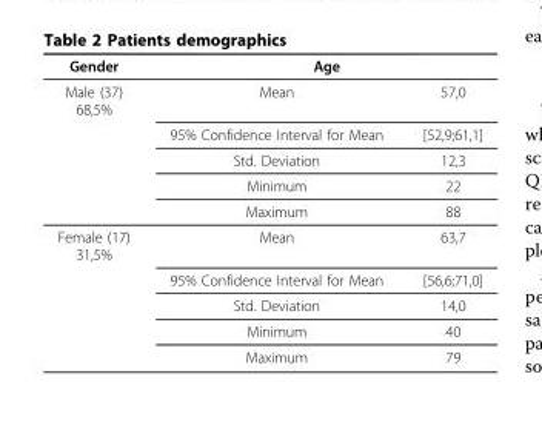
<table><thead><tr><td rowspan="2">Gender Male (37) 68,5%</td><td colspan="2">Age</td></tr><tr><td>Mean</td><td>57,0</td></tr></thead><tbody><tr><td></td><td>95% Confidence Interval for Mean</td><td>[52,9;61,1]</td></tr><tr><td></td><td>Std. Deviation</td><td>12,3</td></tr><tr><td></td><td>Minimum</td><td>22</td></tr><tr><td></td><td>Maximum</td><td>88</td></tr><tr><td rowspan="5">Female (17) 31,5%</td><td>Mean</td><td>63,7</td></tr><tr><td>95% Confidence Interval for Mean</td><td>[56,6;71,0]</td></tr><tr><td>Std. Deviation</td><td>14,0</td></tr><tr><td>Minimum</td><td>40</td></tr><tr><td>Maximum</td><td>79</td></tr></tbody></table>